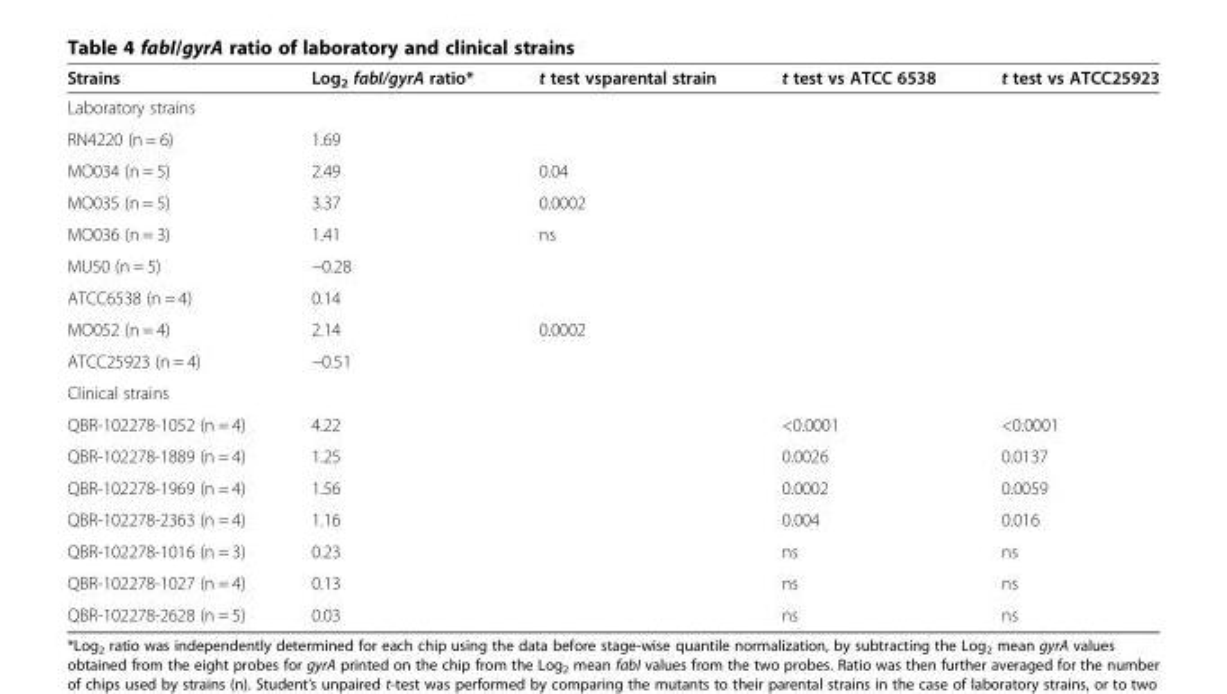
<table><thead><tr><td>Strains</td><td>Log<sub>2</sub> fabI/gyrA ratio*</td><td>t test vsparental strain</td><td>t test vs ATCC 6538</td><td>t test vs ATCC25923</td></tr></thead><tbody><tr><td colspan="5">Laboratory strains</td></tr><tr><td>RN4220 (n = 6)</td><td>1.69</td><td></td><td></td><td></td></tr><tr><td>MO034 (n = 5)</td><td>2.49</td><td>0.04</td><td></td><td></td></tr><tr><td>MO035 (n = 5)</td><td>3.37</td><td>0.0002</td><td></td><td></td></tr><tr><td>MO036 (n = 3)</td><td>1.41</td><td>ns</td><td></td><td></td></tr><tr><td>MU50 (n = 5)</td><td>−0.28</td><td></td><td></td><td></td></tr><tr><td>ATCC6538 (n = 4)</td><td>0.14</td><td></td><td></td><td></td></tr><tr><td>MO052 (n = 4)</td><td>2.14</td><td>0.0002</td><td></td><td></td></tr><tr><td>ATCC25923 (n = 4)</td><td>−0.51</td><td></td><td></td><td></td></tr><tr><td colspan="5">Clinical strains</td></tr><tr><td>QBR-102278-1052 (n = 4)</td><td>4.22</td><td></td><td>&lt;0.0001</td><td>&lt;0.0001</td></tr><tr><td>QBR-102278-1889 (n = 4)</td><td>1.25</td><td></td><td>0.0026</td><td>0.0137</td></tr><tr><td>QBR-102278-1969 (n = 4)</td><td>1.56</td><td></td><td>0.0002</td><td>0.0059</td></tr><tr><td>QBR-102278-2363 (n = 4)</td><td>1.16</td><td></td><td>0.004</td><td>0.016</td></tr><tr><td>QBR-102278-1016 (n = 3)</td><td>0.23</td><td></td><td>ns</td><td>ns</td></tr><tr><td>QBR-102278-1027 (n = 4)</td><td>0.13</td><td></td><td>ns</td><td>ns</td></tr><tr><td>QBR-102278-2628 (n = 5)</td><td>0.03</td><td></td><td>ns</td><td>ns</td></tr></tbody></table>